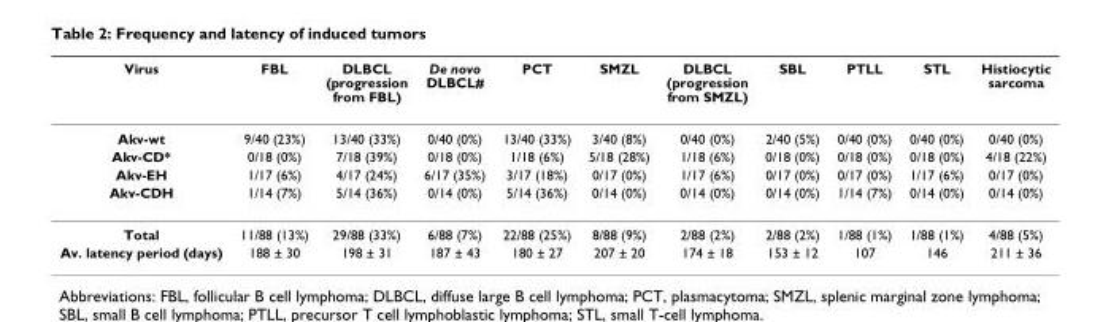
<table><thead><tr><td>Virus</td><td>FBL</td><td>DLBCL (progression from FBL)</td><td>De novo DLBCL#</td><td>PCT</td><td>SMZL</td><td>DLBCL (progression from SMZL)</td><td>SBL</td><td>PTLL</td><td>STL</td><td>Histiocytic sarcoma</td></tr></thead><tbody><tr><td>Akv-wt</td><td>9/40 (23%)</td><td>13/40 (33%)</td><td>0/40 (0%)</td><td>13/40 (33%)</td><td>3/40 (8%)</td><td>0/40 (0%)</td><td>2/40 (5%)</td><td>0/40 (0%)</td><td>0/40 (0%)</td><td>0/40 (0%)</td></tr><tr><td>Akv-CD*</td><td>0/18 (0%)</td><td>7/18 (39%)</td><td>0/18 (0%)</td><td>1/18 (6%)</td><td>5/18 (28%)</td><td>1/18 (6%)</td><td>0/18 (0%)</td><td>0/18 (0%)</td><td>0/18 (0%)</td><td>4/18 (22%)</td></tr><tr><td>Akv-EH</td><td>1/17 (6%)</td><td>4/17 (24%)</td><td>6/17 (35%)</td><td>3/17 (18%)</td><td>0/17 (0%)</td><td>1/17 (6%)</td><td>0/17 (0%)</td><td>0/17 (0%)</td><td>1/17 (6%)</td><td>0/17 (0%)</td></tr><tr><td>Akv-CDH</td><td>1/14 (7%)</td><td>5/14 (36%)</td><td>0/14 (0%)</td><td>5/14 (36%)</td><td>0/14 (0%)</td><td>0/14 (0%)</td><td>0/14 (0%)</td><td>1/14 (7%)</td><td>0/14 (0%)</td><td>0/14 (0%)</td></tr><tr><td>Total</td><td>11/88 (13%)</td><td>29/88 (33%)</td><td>6/88 (7%)</td><td>22/88 (25%)</td><td>8/88 (9%)</td><td>2/88 (2%)</td><td>2/88 (2%)</td><td>1/88 (1%)</td><td>1/88 (1%)</td><td>4/88 (5%)</td></tr><tr><td>Av. latency period (days)</td><td>188 ± 30</td><td>198 ± 31</td><td>187 ± 43</td><td>180 ± 27</td><td>207 ± 20</td><td>174 ± 18</td><td>153 ± 12</td><td>107</td><td>146</td><td>211 ± 36</td></tr></tbody></table>